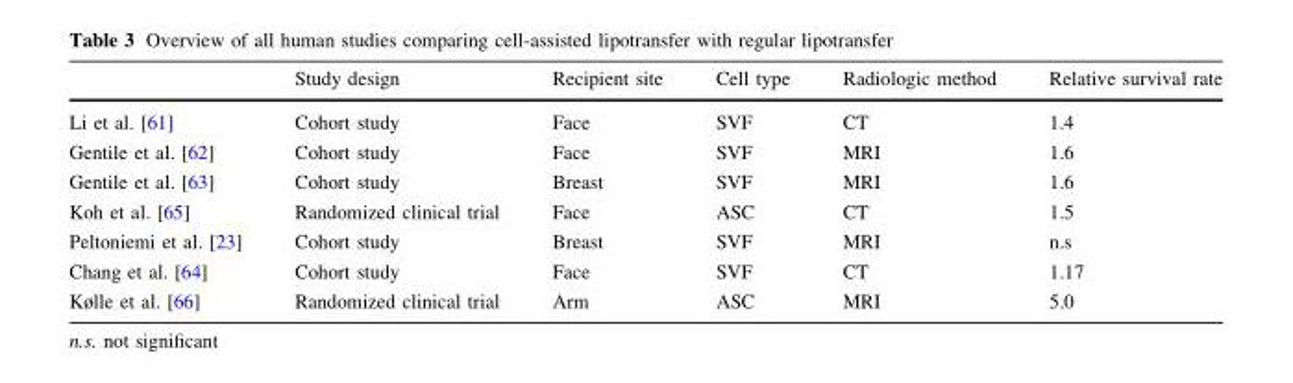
<table><thead><tr><td></td><td>Study design</td><td>Recipient site</td><td>Cell type</td><td>Radiologic method</td><td>Relative survival rate</td></tr></thead><tbody><tr><td>Li et al. [61]</td><td>Cohort study</td><td>Face</td><td>SVF</td><td>CT</td><td>1.4</td></tr><tr><td>Gentile et al. [62]</td><td>Cohort study</td><td>Face</td><td>SVF</td><td>MRI</td><td>1.6</td></tr><tr><td>Gentile et al. [63]</td><td>Cohort study</td><td>Breast</td><td>SVF</td><td>MRI</td><td>1.6</td></tr><tr><td>Koh et al. [65]</td><td>Randomized clinical trial</td><td>Face</td><td>ASC</td><td>CT</td><td>1.5</td></tr><tr><td>Peltoniemi et al. [23]</td><td>Cohort study</td><td>Breast</td><td>SVF</td><td>MRI</td><td>n.s</td></tr><tr><td>Chang et al. [64]</td><td>Cohort study</td><td>Face</td><td>SVF</td><td>CT</td><td>1.17</td></tr><tr><td>Kølle et al. [66]</td><td>Randomized clinical trial</td><td>Arm</td><td>ASC</td><td>MRI</td><td>5.0</td></tr></tbody></table>